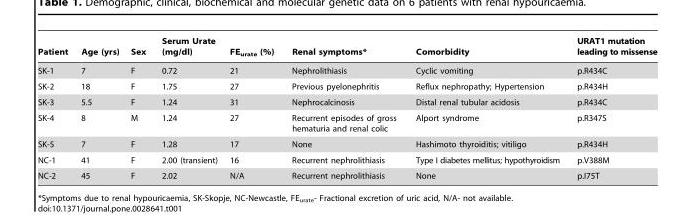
<table><thead><tr><td>Patient</td><td>Age (yrs)</td><td>Sex</td><td>Serum Urate (mg/dl)</td><td>FE<sub>urate</sub> (%)</td><td>Renal symptoms*</td><td>Comorbidity</td><td>URAT1 mutation leading to missense</td></tr></thead><tbody><tr><td>SK-1</td><td>7</td><td>F</td><td>0.72</td><td>21</td><td>Nephrolithiasis</td><td>Cyclic vomiting</td><td>p.R434C</td></tr><tr><td>SK-2</td><td>18</td><td>F</td><td>1.75</td><td>27</td><td>Previous pyelonephritis</td><td>Reflux nephropathy; Hypertension</td><td>p.R434H</td></tr><tr><td>SK-3</td><td>5.5</td><td>F</td><td>1.24</td><td>31</td><td>Nephrocalcinosis</td><td>Distal renal tubular acidosis</td><td>p.R434C</td></tr><tr><td>SK-4</td><td>8</td><td>M</td><td>1.24</td><td>27</td><td>Recurrent episodes of gross hematuria and renal colic</td><td>Alport syndrome</td><td>p.R347S</td></tr><tr><td>SK-5</td><td>7</td><td>F</td><td>1.28</td><td>17</td><td>None</td><td>Hashimoto thyroiditis; vitiligo</td><td>p.R434H</td></tr><tr><td>NC-1</td><td>41</td><td>F</td><td>2.00 (transient)</td><td>16</td><td>Recurrent nephrolithiasis</td><td>Type I diabetes mellitus; hypothyroidism</td><td>p.V388M</td></tr><tr><td>NC-2</td><td>45</td><td>F</td><td>2.02</td><td>N/A</td><td>Recurrent nephrolithiasis</td><td>None</td><td>p.I75T</td></tr></tbody></table>